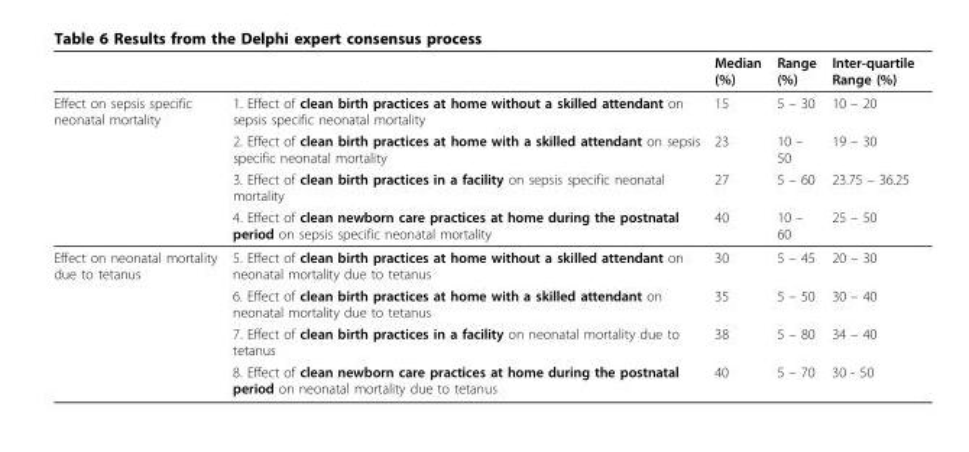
<table><thead><tr><td></td><td></td><td>Median (%)</td><td>Range (%)</td><td>Inter-quartile Range (%)</td></tr></thead><tbody><tr><td rowspan="4">Effect on sepsis specific neonatal mortality</td><td>1. Effect of clean birth practices at home without a skilled attendant on sepsis specific neonatal mortality</td><td>15</td><td>5 – 30</td><td>10 – 20</td></tr><tr><td>2. Effect of clean birth practices at home with a skilled attendant on sepsis specific neonatal mortality</td><td>23</td><td>10 – 50</td><td>19 – 30</td></tr><tr><td>3. Effect of clean birth practices in a facility on sepsis specific neonatal mortality</td><td>27</td><td>5 – 60</td><td>23.75 – 36.25</td></tr><tr><td>4. Effect of clean newborn care practices at home during the postnatal period on sepsis specific neonatal mortality</td><td>40</td><td>10 – 60</td><td>25 – 50</td></tr><tr><td rowspan="4">Effect on neonatal mortality due to tetanus</td><td>5. Effect of clean birth practices at home without a skilled attendant on neonatal mortality due to tetanus</td><td>30</td><td>5 – 45</td><td>20 – 30</td></tr><tr><td>6. Effect of clean birth practices at home with a skilled attendant on neonatal mortality due to tetanus</td><td>35</td><td>5 – 50</td><td>30 – 40</td></tr><tr><td>7. Effect of clean birth practices in a facility on neonatal mortality due to tetanus</td><td>38</td><td>5 – 80</td><td>34 – 40</td></tr><tr><td>8. Effect of clean newborn care practices at home during the postnatal period on neonatal mortality due to tetanus</td><td>40</td><td>5 – 70</td><td>30 - 50</td></tr></tbody></table>